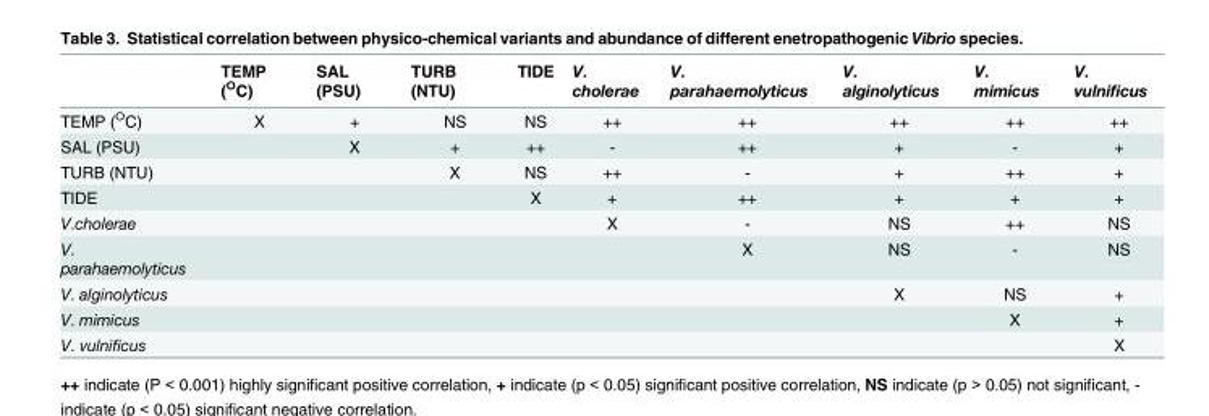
<table><thead><tr><td></td><td>TEMP (<sup>O</sup>C)</td><td>SAL (PSU)</td><td>TURB (NTU)</td><td>TIDE</td><td>V. cholerae</td><td>V. parahaemolyticus</td><td>V. alginolyticus</td><td>V. mimicus</td><td>V. vulnificus</td></tr></thead><tbody><tr><td>TEMP (<sup>O</sup>C)</td><td>X</td><td>+</td><td>NS</td><td>NS</td><td>++</td><td>++</td><td>++</td><td>++</td><td>++</td></tr><tr><td>SAL (PSU)</td><td></td><td>X</td><td>+</td><td>++</td><td>-</td><td>++</td><td>+</td><td>-</td><td>+</td></tr><tr><td>TURB (NTU)</td><td></td><td></td><td>X</td><td>NS</td><td>++</td><td>-</td><td>+</td><td>++</td><td>+</td></tr><tr><td>TIDE</td><td></td><td></td><td></td><td>X</td><td>+</td><td>++</td><td>+</td><td>+</td><td>+</td></tr><tr><td>V.cholerae</td><td></td><td></td><td></td><td></td><td>X</td><td>-</td><td>NS</td><td>++</td><td>NS</td></tr><tr><td>V. parahaemolyticus</td><td></td><td></td><td></td><td></td><td></td><td>X</td><td>NS</td><td>-</td><td>NS</td></tr><tr><td>V. alginolyticus</td><td></td><td></td><td></td><td></td><td></td><td></td><td>X</td><td>NS</td><td>+</td></tr><tr><td>V. mimicus</td><td></td><td></td><td></td><td></td><td></td><td></td><td></td><td>X</td><td>+</td></tr><tr><td>V. vulnificus</td><td></td><td></td><td></td><td></td><td></td><td></td><td></td><td></td><td>X</td></tr></tbody></table>